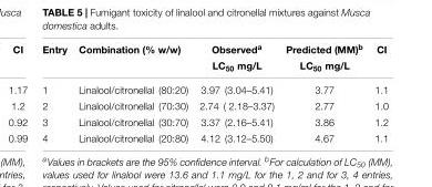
<table><thead><tr><td>Entry</td><td>Combination (% w/w)</td><td>Observed<sup>a</sup> LC<sub>50</sub> mg/L</td><td>Predicted (MM)<sup>b</sup> LC<sub>50</sub> mg/L</td><td>CI</td></tr></thead><tbody><tr><td>1</td><td>Linalool/citronellal (80:20)</td><td>3.97 (3.04–5.41)</td><td>3.77</td><td>1.1</td></tr><tr><td>2</td><td>Linalool/citronellal (70:30)</td><td>2.74 ( 2.18–3.37)</td><td>2.77</td><td>1.0</td></tr><tr><td>3</td><td>Linalool/citronellal (30:70)</td><td>3.37 (2.16–5.41)</td><td>3.86</td><td>1.2</td></tr><tr><td>4</td><td>Linalool/citronellal (20:80)</td><td>4.12 (3.12–5.50)</td><td>4.67</td><td>1.1</td></tr></tbody></table>